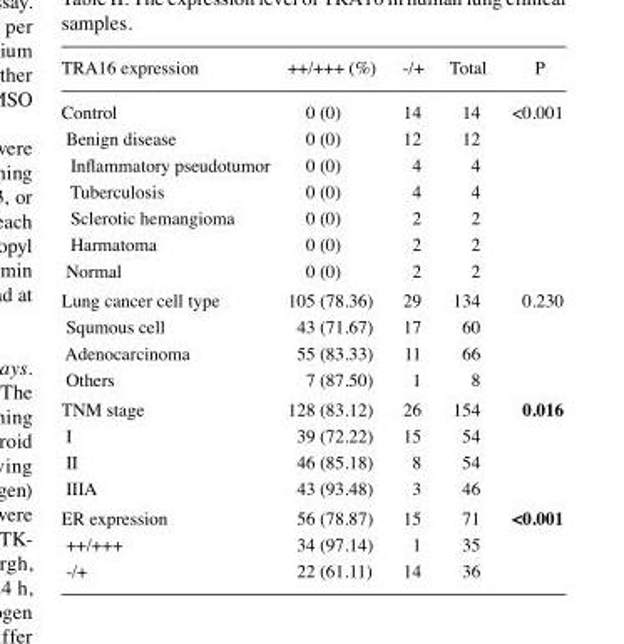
<table><thead><tr><td>TRA16 expression</td><td>++/+++ (%)</td><td>-/+</td><td>Total</td><td>P</td></tr></thead><tbody><tr><td>Control</td><td>0 (0)</td><td>14</td><td>14</td><td>&lt;0.001</td></tr><tr><td>Benign disease</td><td>0 (0)</td><td>12</td><td>12</td><td></td></tr><tr><td>Inflammatory pseudotumor</td><td>0 (0)</td><td>4</td><td>4</td><td></td></tr><tr><td>Tuberculosis</td><td>0 (0)</td><td>4</td><td>4</td><td></td></tr><tr><td>Sclerotic hemangioma</td><td>0 (0)</td><td>2</td><td>2</td><td></td></tr><tr><td>Harmatoma</td><td>0 (0)</td><td>2</td><td>2</td><td></td></tr><tr><td>Normal</td><td>0 (0)</td><td>2</td><td>2</td><td></td></tr><tr><td>Lung cancer cell type</td><td>105 (78.36)</td><td>29</td><td>134</td><td>0.230</td></tr><tr><td>Squmous cell</td><td>43 (71.67)</td><td>17</td><td>60</td><td></td></tr><tr><td>Adenocarcinoma</td><td>55 (83.33)</td><td>11</td><td>66</td><td></td></tr><tr><td>Others</td><td>7 (87.50)</td><td>1</td><td>8</td><td></td></tr><tr><td>TNM stage</td><td>128 (83.12)</td><td>26</td><td>154</td><td>0.016</td></tr><tr><td>I</td><td>39 (72.22)</td><td>15</td><td>54</td><td></td></tr><tr><td>II</td><td>46 (85.18)</td><td>8</td><td>54</td><td></td></tr><tr><td>IIIA</td><td>43 (93.48)</td><td>3</td><td>46</td><td></td></tr><tr><td>ER expression</td><td>56 (78.87)</td><td>15</td><td>71</td><td>&lt;0.001</td></tr><tr><td>++/+++</td><td>34 (97.14)</td><td>1</td><td>35</td><td></td></tr><tr><td>-/+</td><td>22 (61.11)</td><td>14</td><td>36</td><td></td></tr></tbody></table>